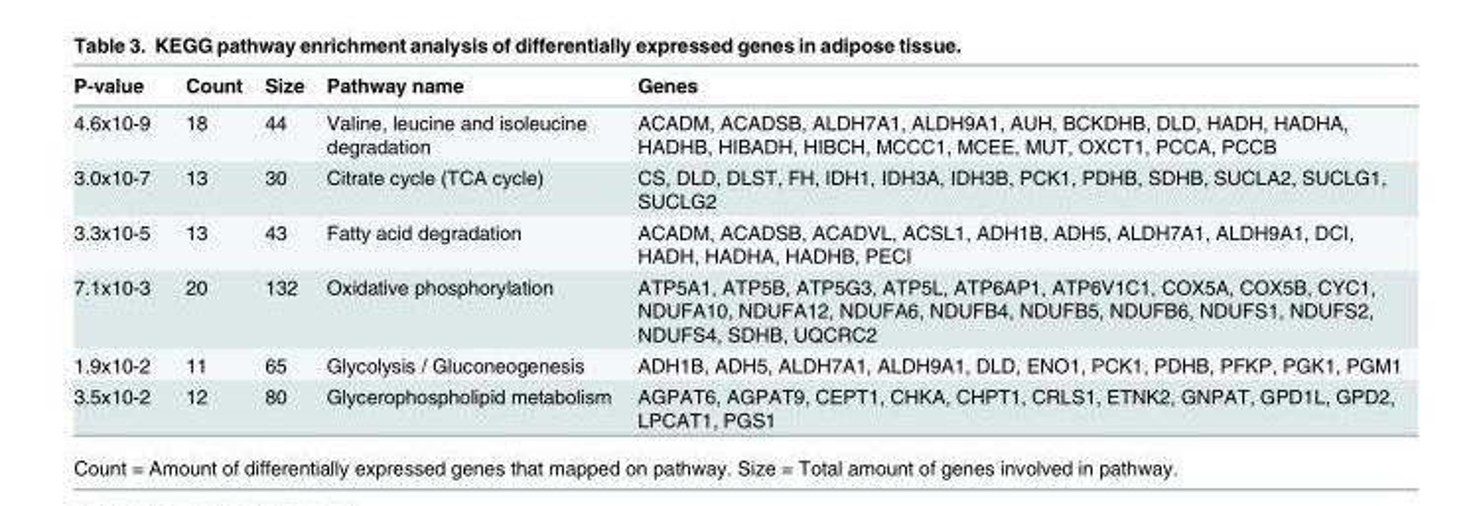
<table><thead><tr><td>P-value</td><td>Count</td><td>Size</td><td>Pathway name</td><td>Genes</td></tr></thead><tbody><tr><td>4.6x10-9</td><td>18</td><td>44</td><td>Valine, leucine and isoleucine degradation</td><td>ACADM, ACADSB, ALDH7A1, ALDH9A1, AUH, BCKDHB, DLD, HADH, HADHA, HADHB, HIBADH, HIBCH, MCCC1, MCEE, MUT, OXCT1, PCCA, PCCB</td></tr><tr><td>3.0x10-7</td><td>13</td><td>30</td><td>Citrate cycle (TCA cycle)</td><td>CS, DLD, DLST, FH, IDH1, IDH3A, IDH3B, PCK1, PDHB, SDHB, SUCLA2, SUCLG1, SUCLG2</td></tr><tr><td>3.3x10-5</td><td>13</td><td>43</td><td>Fatty acid degradation</td><td>ACADM, ACADSB, ACADVL, ACSL1, ADH1B, ADH5, ALDH7A1, ALDH9A1, DCI, HADH, HADHA, HADHB, PECI</td></tr><tr><td>7.1x10-3</td><td>20</td><td>132</td><td>Oxidative phosphorylation</td><td>ATP5A1, ATP5B, ATP5G3, ATP5L, ATP6AP1, ATP6V1C1, COX5A, COX5B, CYC1, NDUFA10, NDUFA12, NDUFA6, NDUFB4, NDUFB5, NDUFB6, NDUFS1, NDUFS2, NDUFS4, SDHB, UQCRC2</td></tr><tr><td>1.9x10-2</td><td>11</td><td>65</td><td>Glycolysis / Gluconeogenesis</td><td>ADH1B, ADH5, ALDH7A1, ALDH9A1, DLD, ENO1, PCK1, PDHB, PFKP, PGK1, PGM1</td></tr><tr><td>3.5x10-2</td><td>12</td><td>80</td><td>Glycerophospholipid metabolism</td><td>AGPAT6, AGPAT9, CEPT1, CHKA, CHPT1, CRLS1, ETNK2, GNPAT, GPD1L, GPD2, LPCAT1, PGS1</td></tr></tbody></table>